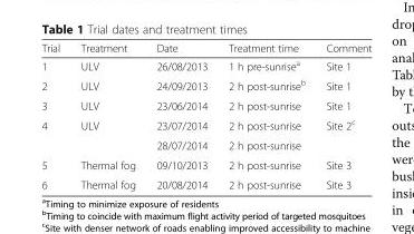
<table><thead><tr><td>Trial</td><td>Treatment</td><td>Date</td><td>Treatment time</td><td>Comment</td></tr></thead><tbody><tr><td>1</td><td>ULV</td><td>26/08/2013</td><td>1 h pre-sunrise<sup>a</sup></td><td>Site 1</td></tr><tr><td>2</td><td>ULV</td><td>24/09/2013</td><td>2 h post-sunrise<sup>b</sup></td><td>Site 1</td></tr><tr><td>3</td><td>ULV</td><td>23/06/2014</td><td>2 h post-sunrise</td><td>Site 1</td></tr><tr><td rowspan="2">4</td><td rowspan="2">ULV</td><td>23/07/2014</td><td>2 h post-sunrise</td><td rowspan="2">Site 2<sup>c</sup></td></tr><tr><td>28/07/2014</td><td>2 h post-sunrise</td></tr><tr><td>5</td><td>Thermal fog</td><td>09/10/2013</td><td>2 h post-sunrise</td><td>Site 3</td></tr><tr><td>6</td><td>Thermal fog</td><td>20/08/2014</td><td>2 h post-sunrise</td><td>Site 3</td></tr></tbody></table>